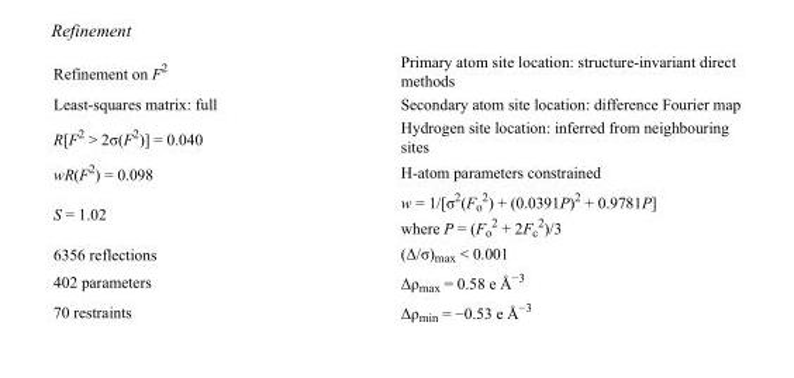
<table><tbody><tr><td>Refinement on F<sup>2</sup></td><td>Primary atom site location: structure-invariant direct methods</td></tr><tr><td>Least-squares matrix: full</td><td>Secondary atom site location: difference Fourier map</td></tr><tr><td>R[F<sup>2</sup> &gt; 2σ(F<sup>2</sup>)] = 0.040</td><td>Hydrogen site location: inferred from neighbouring sites</td></tr><tr><td>wR(F<sup>2</sup>) = 0.098</td><td>H-atom parameters constrained</td></tr><tr><td>S = 1.02</td><td>w = 1/[σ<sup>2</sup>(F<sub>o</sub> <sup>2</sup>) + (0.0391P)<sup>2</sup> + 0.9781P] where P = (F<sub>o</sub> <sup>2</sup> + 2F<sub>c</sub> <sup>2</sup>)/3</td></tr><tr><td>6356 reflections</td><td>(Δ/σ)<sub>max</sub> &lt; 0.001</td></tr><tr><td>402 parameters</td><td>Δρ<sub>max</sub> = 0.58 e Å<sup>−3</sup></td></tr><tr><td>70 restraints</td><td>Δρ<sub>min</sub> = −0.53 e Å<sup>−3</sup></td></tr></tbody></table>